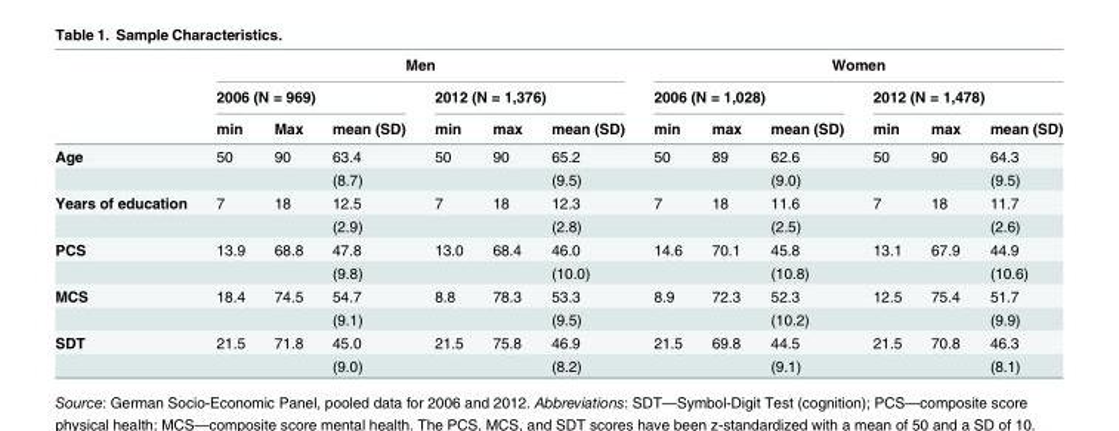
<table><thead><tr><td rowspan="3"></td><td colspan="6">Men</td><td colspan="6">Women</td></tr><tr><td colspan="3">2006 (N = 969)</td><td colspan="3">2012 (N = 1,376)</td><td colspan="3">2006 (N = 1,028)</td><td colspan="3">2012 (N = 1,478)</td></tr><tr><td>min</td><td>Max</td><td>mean (SD)</td><td>min</td><td>max</td><td>mean (SD)</td><td>min</td><td>max</td><td>mean (SD)</td><td>min</td><td>max</td><td>mean (SD)</td></tr></thead><tbody><tr><td rowspan="2">Age</td><td>50</td><td>90</td><td>63.4</td><td>50</td><td>90</td><td>65.2</td><td>50</td><td>89</td><td>62.6</td><td>50</td><td>90</td><td>64.3</td></tr><tr><td></td><td></td><td>(8.7)</td><td></td><td></td><td>(9.5)</td><td></td><td></td><td>(9.0)</td><td></td><td></td><td>(9.5)</td></tr><tr><td rowspan="2">Years of education</td><td>7</td><td>18</td><td>12.5</td><td>7</td><td>18</td><td>12.3</td><td>7</td><td>18</td><td>11.6</td><td>7</td><td>18</td><td>11.7</td></tr><tr><td></td><td></td><td>(2.9)</td><td></td><td></td><td>(2.8)</td><td></td><td></td><td>(2.5)</td><td></td><td></td><td>(2.6)</td></tr><tr><td rowspan="2">PCS</td><td>13.9</td><td>68.8</td><td>47.8</td><td>13.0</td><td>68.4</td><td>46.0</td><td>14.6</td><td>70.1</td><td>45.8</td><td>13.1</td><td>67.9</td><td>44.9</td></tr><tr><td></td><td></td><td>(9.8)</td><td></td><td></td><td>(10.0)</td><td></td><td></td><td>(10.8)</td><td></td><td></td><td>(10.6)</td></tr><tr><td rowspan="2">MCS</td><td>18.4</td><td>74.5</td><td>54.7</td><td>8.8</td><td>78.3</td><td>53.3</td><td>8.9</td><td>72.3</td><td>52.3</td><td>12.5</td><td>75.4</td><td>51.7</td></tr><tr><td></td><td></td><td>(9.1)</td><td></td><td></td><td>(9.5)</td><td></td><td></td><td>(10.2)</td><td></td><td></td><td>(9.9)</td></tr><tr><td rowspan="2">SDT</td><td>21.5</td><td>71.8</td><td>45.0</td><td>21.5</td><td>75.8</td><td>46.9</td><td>21.5</td><td>69.8</td><td>44.5</td><td>21.5</td><td>70.8</td><td>46.3</td></tr><tr><td></td><td></td><td>(9.0)</td><td></td><td></td><td>(8.2)</td><td></td><td></td><td>(9.1)</td><td></td><td></td><td>(8.1)</td></tr></tbody></table>